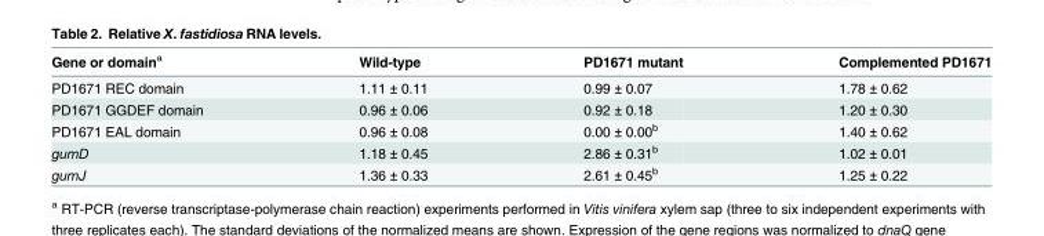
<table><thead><tr><td>Gene or domaina</td><td>Wild-type</td><td>PD1671 mutant</td><td>Complemented PD1671</td></tr></thead><tbody><tr><td>PD1671 REC domain</td><td>1.11 ± 0.11</td><td>0.99 ± 0.07</td><td>1.78 ± 0.62</td></tr><tr><td>PD1671 GGDEF domain</td><td>0.96 ± 0.06</td><td>0.92 ± 0.18</td><td>1.20 ± 0.30</td></tr><tr><td>PD1671 EAL domain</td><td>0.96 ± 0.08</td><td>0.00 ± 0.00<sup>b</sup></td><td>1.40 ± 0.62</td></tr><tr><td>gumD</td><td>1.18 ± 0.45</td><td>2.86 ± 0.31<sup>b</sup></td><td>1.02 ± 0.01</td></tr><tr><td>gumJ</td><td>1.36 ± 0.33</td><td>2.61 ± 0.45<sup>b</sup></td><td>1.25 ± 0.22</td></tr></tbody></table>